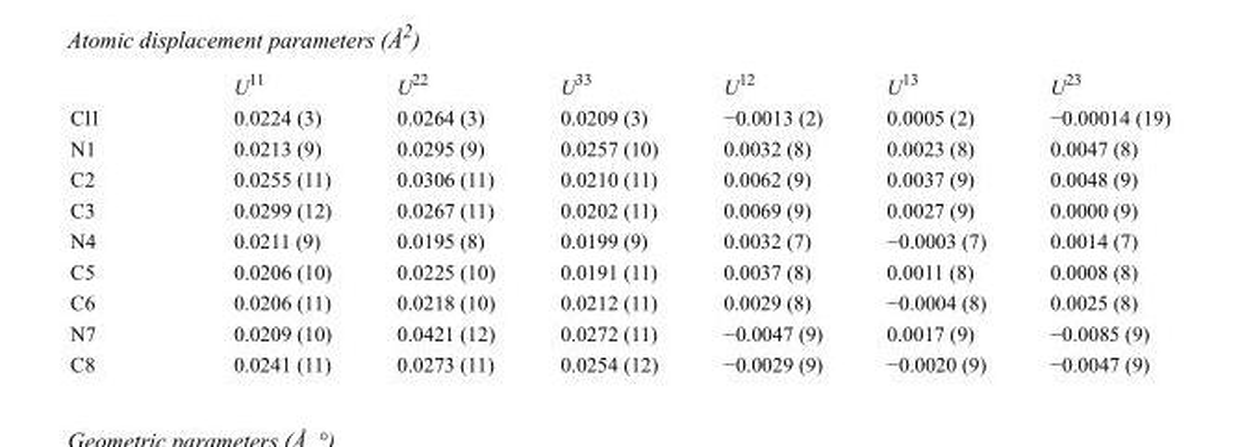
<table><thead><tr><td></td><td>U<sup>11</sup></td><td>U<sup>22</sup></td><td>U<sup>33</sup></td><td>U<sup>12</sup></td><td>U<sup>13</sup></td><td>U<sup>23</sup></td></tr></thead><tbody><tr><td>Cl1</td><td>0.0224 (3)</td><td>0.0264 (3)</td><td>0.0209 (3)</td><td>−0.0013 (2)</td><td>0.0005 (2)</td><td>−0.00014 (19)</td></tr><tr><td>N1</td><td>0.0213 (9)</td><td>0.0295 (9)</td><td>0.0257 (10)</td><td>0.0032 (8)</td><td>0.0023 (8)</td><td>0.0047 (8)</td></tr><tr><td>C2</td><td>0.0255 (11)</td><td>0.0306 (11)</td><td>0.0210 (11)</td><td>0.0062 (9)</td><td>0.0037 (9)</td><td>0.0048 (9)</td></tr><tr><td>C3</td><td>0.0299 (12)</td><td>0.0267 (11)</td><td>0.0202 (11)</td><td>0.0069 (9)</td><td>0.0027 (9)</td><td>0.0000 (9)</td></tr><tr><td>N4</td><td>0.0211 (9)</td><td>0.0195 (8)</td><td>0.0199 (9)</td><td>0.0032 (7)</td><td>−0.0003 (7)</td><td>0.0014 (7)</td></tr><tr><td>C5</td><td>0.0206 (10)</td><td>0.0225 (10)</td><td>0.0191 (11)</td><td>0.0037 (8)</td><td>0.0011 (8)</td><td>0.0008 (8)</td></tr><tr><td>C6</td><td>0.0206 (11)</td><td>0.0218 (10)</td><td>0.0212 (11)</td><td>0.0029 (8)</td><td>−0.0004 (8)</td><td>0.0025 (8)</td></tr><tr><td>N7</td><td>0.0209 (10)</td><td>0.0421 (12)</td><td>0.0272 (11)</td><td>−0.0047 (9)</td><td>0.0017 (9)</td><td>−0.0085 (9)</td></tr><tr><td>C8</td><td>0.0241 (11)</td><td>0.0273 (11)</td><td>0.0254 (12)</td><td>−0.0029 (9)</td><td>−0.0020 (9)</td><td>−0.0047 (9)</td></tr></tbody></table>